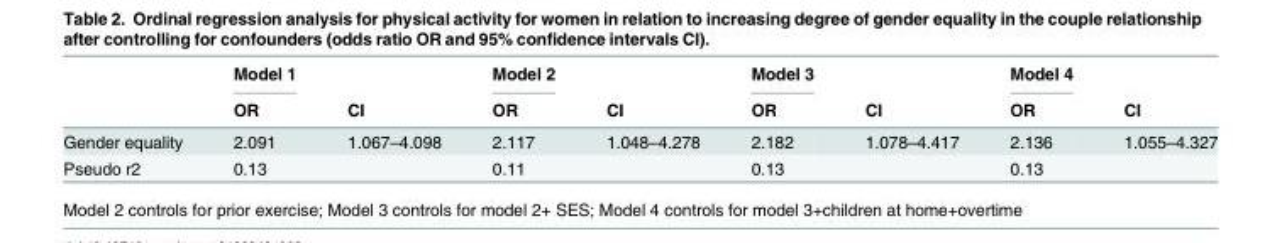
<table><thead><tr><td rowspan="2"></td><td rowspan="2">Model 1 OR</td><td rowspan="2">CI</td><td rowspan="2">Model 2 OR</td><td rowspan="2">CI</td><td rowspan="2">Model 3 OR</td><td rowspan="2">CI</td><td rowspan="2">Model 4 OR</td><td rowspan="2">CI</td></tr><tr></tr></thead><tbody><tr><td>Gender equality</td><td>2.091</td><td>1.067–4.098</td><td>2.117</td><td>1.048–4.278</td><td>2.182</td><td>1.078–4.417</td><td>2.136</td><td>1.055–4.327</td></tr><tr><td>Pseudo r2</td><td>0.13</td><td></td><td>0.11</td><td></td><td>0.13</td><td></td><td>0.13</td><td></td></tr></tbody></table>